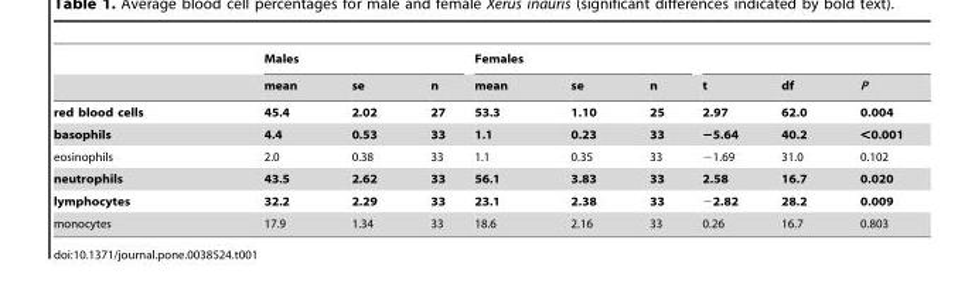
<table><thead><tr><td rowspan="2"></td><td colspan="3">Males</td><td colspan="3">Females</td><td rowspan="2">t</td><td rowspan="2">df</td><td rowspan="2">P</td></tr><tr><td>mean</td><td>se</td><td>n</td><td>mean</td><td>se</td><td>n</td></tr></thead><tbody><tr><td>red blood cells</td><td>45.4</td><td>2.02</td><td>27</td><td>53.3</td><td>1.10</td><td>25</td><td>2.97</td><td>62.0</td><td>0.004</td></tr><tr><td>basophils</td><td>4.4</td><td>0.53</td><td>33</td><td>1.1</td><td>0.23</td><td>33</td><td>−5.64</td><td>40.2</td><td>&lt;0.001</td></tr><tr><td>eosinophils</td><td>2.0</td><td>0.38</td><td>33</td><td>1.1</td><td>0.35</td><td>33</td><td>−1.69</td><td>31.0</td><td>0.102</td></tr><tr><td>neutrophils</td><td>43.5</td><td>2.62</td><td>33</td><td>56.1</td><td>3.83</td><td>33</td><td>2.58</td><td>16.7</td><td>0.020</td></tr><tr><td>lymphocytes</td><td>32.2</td><td>2.29</td><td>33</td><td>23.1</td><td>2.38</td><td>33</td><td>−2.82</td><td>28.2</td><td>0.009</td></tr><tr><td>monocytes</td><td>17.9</td><td>1.34</td><td>33</td><td>18.6</td><td>2.16</td><td>33</td><td>0.26</td><td>16.7</td><td>0.803</td></tr></tbody></table>